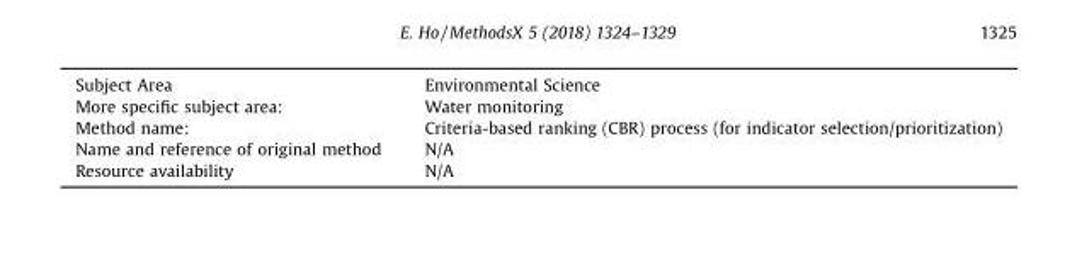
<table><tbody><tr><td>Subject Area</td><td>Environmental Science</td></tr><tr><td>More specific subject area:</td><td>Water monitoring</td></tr><tr><td>Method name:</td><td>Criteria-based ranking (CBR) process (for indicator selection/prioritization)</td></tr><tr><td>Name and reference of original method</td><td>N/A</td></tr><tr><td>Resource availability</td><td>N/A</td></tr></tbody></table>